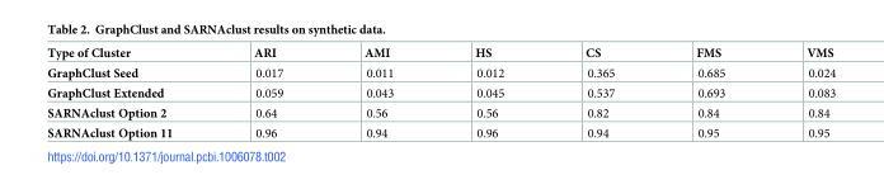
<table><thead><tr><td>Type of Cluster</td><td>ARI</td><td>AMI</td><td>HS</td><td>CS</td><td>FMS</td><td>VMS</td></tr></thead><tbody><tr><td>GraphClust Seed</td><td>0.017</td><td>0.011</td><td>0.012</td><td>0.365</td><td>0.685</td><td>0.024</td></tr><tr><td>GraphClust Extended</td><td>0.059</td><td>0.043</td><td>0.045</td><td>0.537</td><td>0.693</td><td>0.083</td></tr><tr><td>SARNAclust Option 2</td><td>0.64</td><td>0.56</td><td>0.56</td><td>0.82</td><td>0.84</td><td>0.84</td></tr><tr><td>SARNAclust Option 11</td><td>0.96</td><td>0.94</td><td>0.96</td><td>0.94</td><td>0.95</td><td>0.95</td></tr></tbody></table>